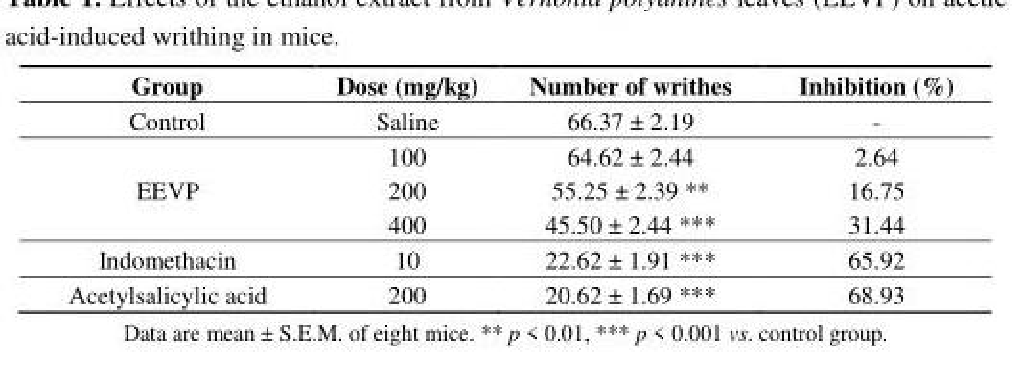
<table><thead><tr><td>Group</td><td>Dose (mg/kg)</td><td>Number of writhes</td><td>Inhibition (%)</td></tr></thead><tbody><tr><td rowspan="2">Control</td><td>Saline</td><td>66.37 ± 2.19</td><td>-</td></tr><tr><td>100</td><td>64.62 ± 2.44</td><td>2.64</td></tr><tr><td rowspan="2">EEVP</td><td>200</td><td>55.25 ± 2.39 **</td><td>16.75</td></tr><tr><td>400</td><td>45.50 ± 2.44 ***</td><td>31.44</td></tr><tr><td>Indomethacin</td><td>10</td><td>22.62 ± 1.91 ***</td><td>65.92</td></tr><tr><td>Acetylsalicylic acid</td><td>200</td><td>20.62 ± 1.69 ***</td><td>68.93</td></tr></tbody></table>